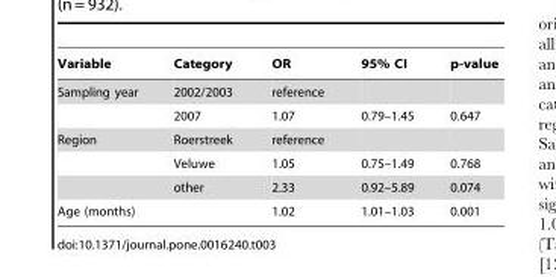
<table><thead><tr><td>Variable</td><td>Category</td><td>OR</td><td>95% CI</td><td>p-value</td></tr></thead><tbody><tr><td rowspan="2">Sampling year</td><td>2002/2003</td><td>reference</td><td></td><td></td></tr><tr><td>2007</td><td>1.07</td><td>0.79–1.45</td><td>0.647</td></tr><tr><td rowspan="3">Region</td><td>Roerstreek</td><td>reference</td><td></td><td></td></tr><tr><td>Veluwe</td><td>1.05</td><td>0.75–1.49</td><td>0.768</td></tr><tr><td>other</td><td>2.33</td><td>0.92–5.89</td><td>0.074</td></tr><tr><td>Age (months)</td><td></td><td>1.02</td><td>1.01–1.03</td><td>0.001</td></tr></tbody></table>